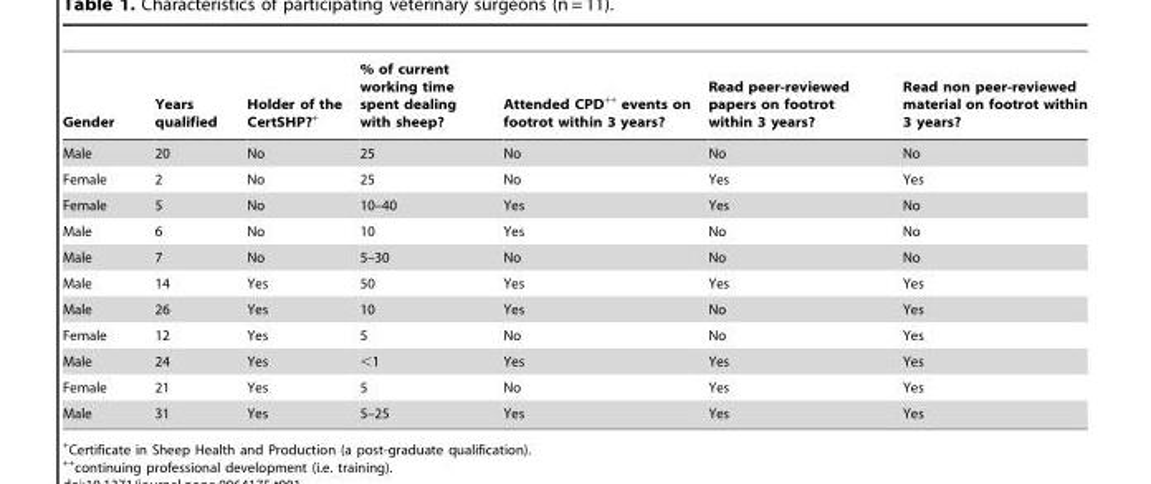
<table><thead><tr><td>Gender</td><td>Years qualified</td><td>Holder of the CertSHP?+</td><td>% of current working time spent dealing with sheep?</td><td>Attended CPD++ events on footrot within 3 years?</td><td>Read peer-reviewed papers on footrot within 3 years?</td><td>Read non peer-reviewed material on footrot within 3 years?</td></tr></thead><tbody><tr><td>Male</td><td>20</td><td>No</td><td>25</td><td>No</td><td>No</td><td>No</td></tr><tr><td>Female</td><td>2</td><td>No</td><td>25</td><td>No</td><td>Yes</td><td>Yes</td></tr><tr><td>Female</td><td>5</td><td>No</td><td>10–40</td><td>Yes</td><td>Yes</td><td>No</td></tr><tr><td>Male</td><td>6</td><td>No</td><td>10</td><td>Yes</td><td>No</td><td>No</td></tr><tr><td>Male</td><td>7</td><td>No</td><td>5–30</td><td>No</td><td>No</td><td>No</td></tr><tr><td>Male</td><td>14</td><td>Yes</td><td>50</td><td>Yes</td><td>Yes</td><td>Yes</td></tr><tr><td>Male</td><td>26</td><td>Yes</td><td>10</td><td>Yes</td><td>No</td><td>Yes</td></tr><tr><td>Female</td><td>12</td><td>Yes</td><td>5</td><td>No</td><td>No</td><td>Yes</td></tr><tr><td>Male</td><td>24</td><td>Yes</td><td>&lt;1</td><td>Yes</td><td>Yes</td><td>Yes</td></tr><tr><td>Female</td><td>21</td><td>Yes</td><td>5</td><td>No</td><td>Yes</td><td>Yes</td></tr><tr><td>Male</td><td>31</td><td>Yes</td><td>5–25</td><td>Yes</td><td>Yes</td><td>Yes</td></tr></tbody></table>